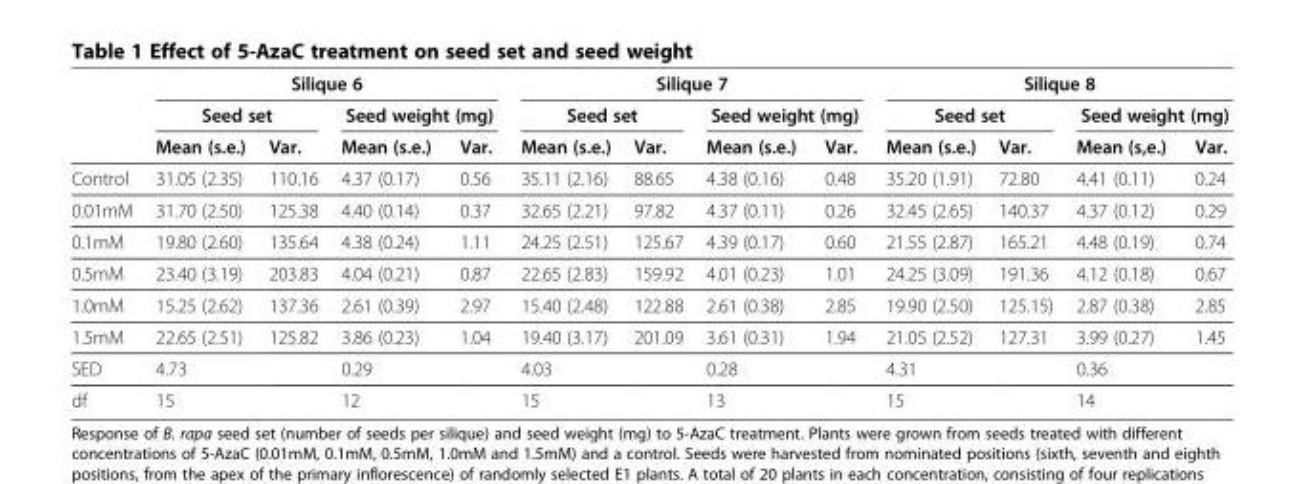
<table><thead><tr><td rowspan="3"></td><td colspan="4">Silique 6</td><td colspan="4">Silique 7</td><td colspan="4">Silique 8</td></tr><tr><td colspan="2">Seed set</td><td colspan="2">Seed weight (mg)</td><td colspan="2">Seed set</td><td colspan="2">Seed weight (mg)</td><td colspan="2">Seed set</td><td colspan="2">Seed weight (mg)</td></tr><tr><td>Mean (s.e.)</td><td>Var.</td><td>Mean (s.e.)</td><td>Var.</td><td>Mean (s.e.)</td><td>Var.</td><td>Mean (s.e.)</td><td>Var.</td><td>Mean (s.e.)</td><td>Var.</td><td>Mean (s,e.)</td><td>Var.</td></tr></thead><tbody><tr><td>Control</td><td>31.05 (2.35)</td><td>110.16</td><td>4.37 (0.17)</td><td>0.56</td><td>35.11 (2.16)</td><td>88.65</td><td>4.38 (0.16)</td><td>0.48</td><td>35.20 (1.91)</td><td>72.80</td><td>4.41 (0.11)</td><td>0.24</td></tr><tr><td>0.01mM</td><td>31.70 (2.50)</td><td>125.38</td><td>4.40 (0.14)</td><td>0.37</td><td>32.65 (2.21)</td><td>97.82</td><td>4.37 (0.11)</td><td>0.26</td><td>32.45 (2.65)</td><td>140.37</td><td>4.37 (0.12)</td><td>0.29</td></tr><tr><td>0.1mM</td><td>19.80 (2.60)</td><td>135.64</td><td>4.38 (0.24)</td><td>1.11</td><td>24.25 (2.51)</td><td>125.67</td><td>4.39 (0.17)</td><td>0.60</td><td>21.55 (2.87)</td><td>165.21</td><td>4.48 (0.19)</td><td>0.74</td></tr><tr><td>0.5mM</td><td>23.40 (3.19)</td><td>203.83</td><td>4.04 (0.21)</td><td>0.87</td><td>22.65 (2.83)</td><td>159.92</td><td>4.01 (0.23)</td><td>1.01</td><td>24.25 (3.09)</td><td>191.36</td><td>4.12 (0.18)</td><td>0.67</td></tr><tr><td>1.0mM</td><td>15.25 (2.62)</td><td>137.36</td><td>2.61 (0.39)</td><td>2.97</td><td>15.40 (2.48)</td><td>122.88</td><td>2.61 (0.38)</td><td>2.85</td><td>19.90 (2.50)</td><td>125.15)</td><td>2.87 (0.38)</td><td>2.85</td></tr><tr><td>1.5mM</td><td>22.65 (2.51)</td><td>125.82</td><td>3.86 (0.23)</td><td>1.04</td><td>19.40 (3.17)</td><td>201.09</td><td>3.61 (0.31)</td><td>1.94</td><td>21.05 (2.52)</td><td>127.31</td><td>3.99 (0.27)</td><td>1.45</td></tr><tr><td>SED</td><td>4.73</td><td></td><td>0.29</td><td></td><td>4.03</td><td></td><td>0.28</td><td></td><td>4.31</td><td></td><td>0.36</td><td></td></tr><tr><td>df</td><td>15</td><td></td><td>12</td><td></td><td>15</td><td></td><td>13</td><td></td><td>15</td><td></td><td>14</td><td></td></tr></tbody></table>